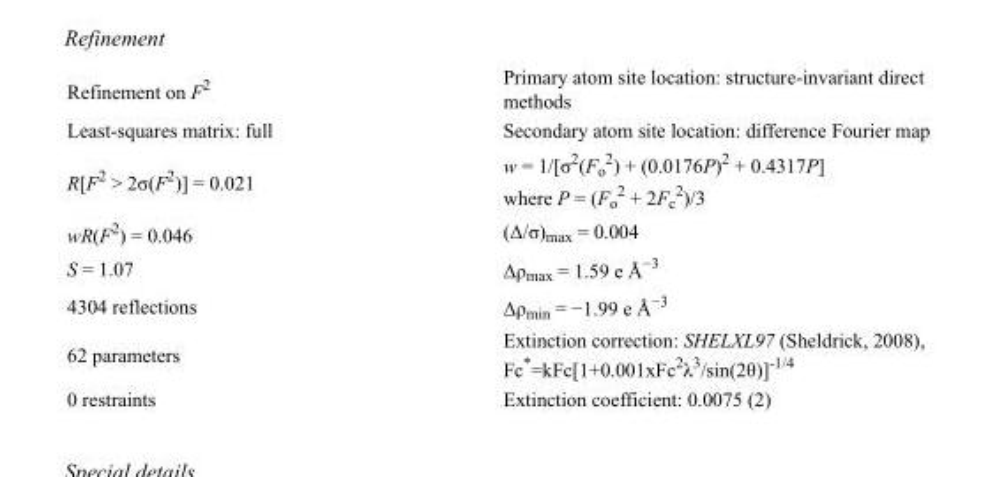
<table><tbody><tr><td>Refinement on F<sup>2</sup></td><td>Primary atom site location: structure-invariant direct methods</td></tr><tr><td>Least-squares matrix: full</td><td>Secondary atom site location: difference Fourier map</td></tr><tr><td>R[F<sup>2</sup> &gt; 2σ(F<sup>2</sup>)] = 0.021</td><td>w = 1/[σ<sup>2</sup>(F<sub>o</sub> <sup>2</sup>) + (0.0176P)<sup>2</sup> + 0.4317P] where P = (F<sub>o</sub> <sup>2</sup> + 2F<sub>c</sub> <sup>2</sup>)/3</td></tr><tr><td>wR(F<sup>2</sup>) = 0.046</td><td>(Δ/σ)<sub>max</sub> = 0.004</td></tr><tr><td>S = 1.07</td><td>Δρ<sub>max</sub> = 1.59 e Å<sup>−3</sup></td></tr><tr><td>4304 reflections</td><td>Δρ<sub>min</sub> = −1.99 e Å<sup>−3</sup></td></tr><tr><td>62 parameters</td><td>Extinction correction: SHELXL97 (Sheldrick, 2008), Fc*=kFc[1+0.001xFc<sup>2</sup>λ<sup>3</sup>/sin(2θ)]<sup>-1/4</sup></td></tr><tr><td>0 restraints</td><td>Extinction coefficient: 0.0075 (2)</td></tr></tbody></table>